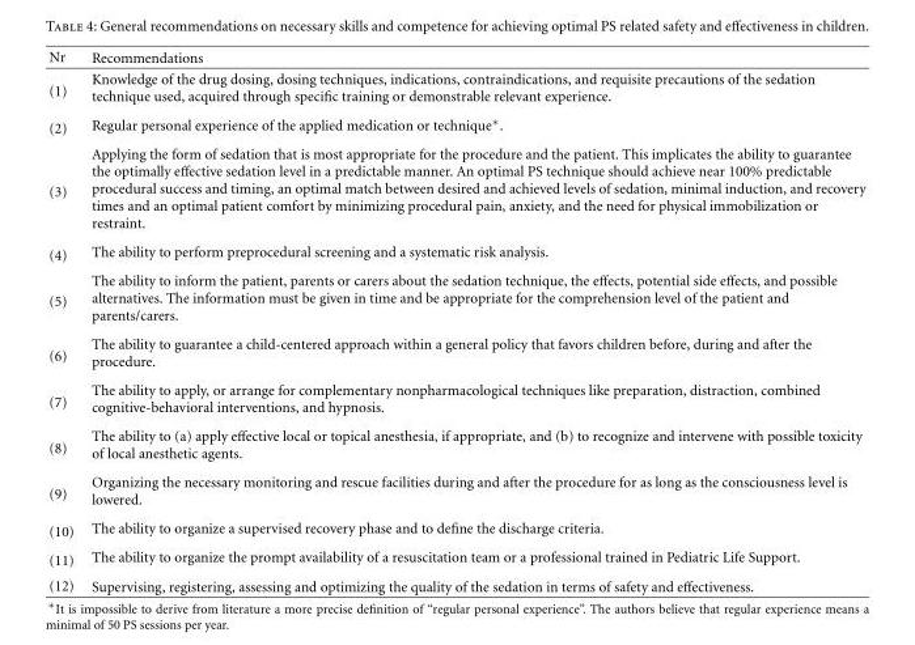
<table><thead><tr><td>Nr</td><td>Recommendations</td></tr></thead><tbody><tr><td>(1)</td><td>Knowledge of the drug dosing, dosing techniques, indications, contraindications, and requisite precautions of the sedation technique used, acquired through specific training or demonstrable relevant experience.</td></tr><tr><td>(2)</td><td>Regular personal experience of the applied medication or technique∗.</td></tr><tr><td>(3)</td><td>Applying the form of sedation that is most appropriate for the procedure and the patient. This implicates the ability to guarantee the optimally effective sedation level in a predictable manner. An optimal PS technique should achieve near 100% predictable procedural success and timing, an optimal match between desired and achieved levels of sedation, minimal induction, and recovery times and an optimal patient comfort by minimizing procedural pain, anxiety, and the need for physical immobilization or restraint.</td></tr><tr><td>(4)</td><td>The ability to perform preprocedural screening and a systematic risk analysis.</td></tr><tr><td>(5)</td><td>The ability to inform the patient, parents or carers about the sedation technique, the effects, potential side effects, and possible alternatives. The information must be given in time and be appropriate for the comprehension level of the patient and parents/carers.</td></tr><tr><td>(6)</td><td>The ability to guarantee a child-centered approach within a general policy that favors children before, during and after the procedure.</td></tr><tr><td>(7)</td><td>The ability to apply, or arrange for complementary nonpharmacological techniques like preparation, distraction, combined cognitive-behavioral interventions, and hypnosis.</td></tr><tr><td>(8)</td><td>The ability to (a) apply effective local or topical anesthesia, if appropriate, and (b) to recognize and intervene with possible toxicity of local anesthetic agents.</td></tr><tr><td>(9)</td><td>Organizing the necessary monitoring and rescue facilities during and after the procedure for as long as the consciousness level is lowered.</td></tr><tr><td>(10)</td><td>The ability to organize a supervised recovery phase and to define the discharge criteria.</td></tr><tr><td>(11)</td><td>The ability to organize the prompt availability of a resuscitation team or a professional trained in Pediatric Life Support.</td></tr><tr><td>(12)</td><td>Supervising, registering, assessing and optimizing the quality of the sedation in terms of safety and effectiveness.</td></tr></tbody></table>